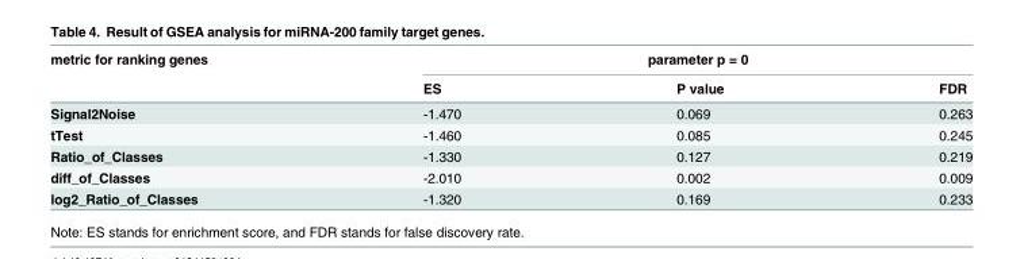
<table><thead><tr><td rowspan="2">metric for ranking genes</td><td colspan="3">parameter p = 0</td></tr><tr><td>ES</td><td>P value</td><td>FDR</td></tr></thead><tbody><tr><td>Signal2Noise</td><td>-1.470</td><td>0.069</td><td>0.263</td></tr><tr><td>tTest</td><td>-1.460</td><td>0.085</td><td>0.245</td></tr><tr><td>Ratio_of_Classes</td><td>-1.330</td><td>0.127</td><td>0.219</td></tr><tr><td>diff_of_Classes</td><td>-2.010</td><td>0.002</td><td>0.009</td></tr><tr><td>log2_Ratio_of_Classes</td><td>-1.320</td><td>0.169</td><td>0.233</td></tr></tbody></table>